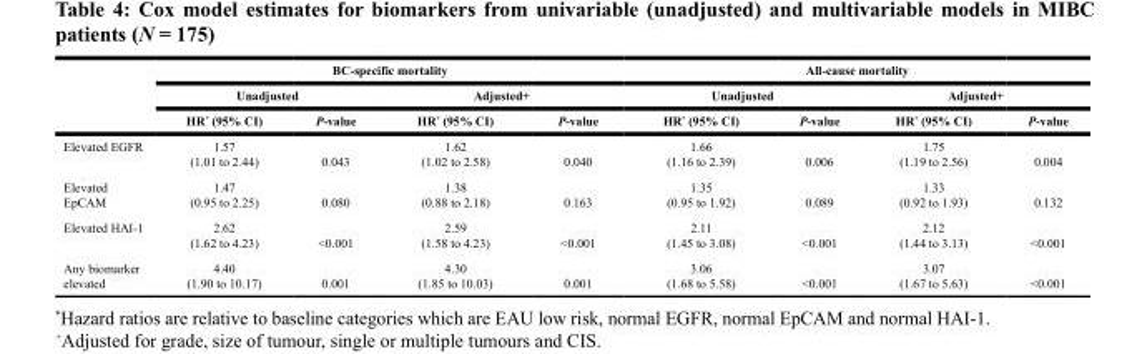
<table><thead><tr><td rowspan="3"></td><td colspan="4">BC-specific mortality</td><td colspan="4">All-cause mortality</td></tr><tr><td colspan="2">Unadjusted</td><td colspan="2">Adjusted+</td><td colspan="2">Unadjusted</td><td colspan="2">Adjusted+</td></tr><tr><td>HR* (95% CI)</td><td>P-value</td><td>HR* (95% CI)</td><td>P-value</td><td>HR* (95% CI)</td><td>P-value</td><td>HR* (95% CI)</td><td>P-value</td></tr></thead><tbody><tr><td>Elevated EGFR</td><td>1.57 (1.01 to 2.44)</td><td>0.043</td><td>1.62 (1.02 to 2.58)</td><td>0.040</td><td>1.66 (1.16 to 2.39)</td><td>0.006</td><td>1.75 (1.19 to 2.56)</td><td>0.004</td></tr><tr><td>Elevated EpCAM</td><td>1.47 (0.95 to 2.25)</td><td>0.080</td><td>1.38 (0.88 to 2.18)</td><td>0.163</td><td>1.35 (0.95 to 1.92)</td><td>0.089</td><td>1.33 (0.92 to 1.93)</td><td>0.132</td></tr><tr><td>Elevated HAI-1</td><td>2.62 (1.62 to 4.23)</td><td>&lt;0.001</td><td>2.59 (1.58 to 4.23)</td><td>&lt;0.001</td><td>2.11 (1.45 to 3.08)</td><td>&lt;0.001</td><td>2.12 (1.44 to 3.13)</td><td>&lt;0.001</td></tr><tr><td>Any biomarker elevated</td><td>4.40 (1.90 to 10.17)</td><td>0.001</td><td>4.30 (1.85 to 10.03)</td><td>0.001</td><td>3.06 (1.68 to 5.58)</td><td>&lt;0.001</td><td>3.07 (1.67 to 5.63)</td><td>&lt;0.001</td></tr></tbody></table>